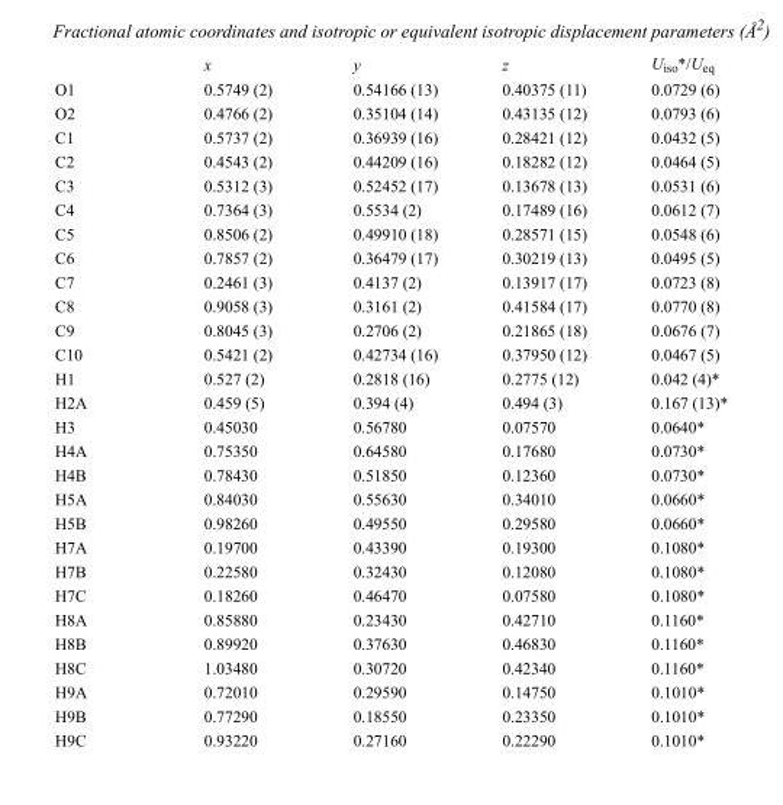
<table><thead><tr><td></td><td>x</td><td>y</td><td>z</td><td>U<sub>iso</sub>*/U<sub>eq</sub></td></tr></thead><tbody><tr><td>O1</td><td>0.5749 (2)</td><td>0.54166 (13)</td><td>0.40375 (11)</td><td>0.0729 (6)</td></tr><tr><td>O2</td><td>0.4766 (2)</td><td>0.35104 (14)</td><td>0.43135 (12)</td><td>0.0793 (6)</td></tr><tr><td>C1</td><td>0.5737 (2)</td><td>0.36939 (16)</td><td>0.28421 (12)</td><td>0.0432 (5)</td></tr><tr><td>C2</td><td>0.4543 (2)</td><td>0.44209 (16)</td><td>0.18282 (12)</td><td>0.0464 (5)</td></tr><tr><td>C3</td><td>0.5312 (3)</td><td>0.52452 (17)</td><td>0.13678 (13)</td><td>0.0531 (6)</td></tr><tr><td>C4</td><td>0.7364 (3)</td><td>0.5534 (2)</td><td>0.17489 (16)</td><td>0.0612 (7)</td></tr><tr><td>C5</td><td>0.8506 (2)</td><td>0.49910 (18)</td><td>0.28571 (15)</td><td>0.0548 (6)</td></tr><tr><td>C6</td><td>0.7857 (2)</td><td>0.36479 (17)</td><td>0.30219 (13)</td><td>0.0495 (5)</td></tr><tr><td>C7</td><td>0.2461 (3)</td><td>0.4137 (2)</td><td>0.13917 (17)</td><td>0.0723 (8)</td></tr><tr><td>C8</td><td>0.9058 (3)</td><td>0.3161 (2)</td><td>0.41584 (17)</td><td>0.0770 (8)</td></tr><tr><td>C9</td><td>0.8045 (3)</td><td>0.2706 (2)</td><td>0.21865 (18)</td><td>0.0676 (7)</td></tr><tr><td>C10</td><td>0.5421 (2)</td><td>0.42734 (16)</td><td>0.37950 (12)</td><td>0.0467 (5)</td></tr><tr><td>H1</td><td>0.527 (2)</td><td>0.2818 (16)</td><td>0.2775 (12)</td><td>0.042 (4)*</td></tr><tr><td>H2A</td><td>0.459 (5)</td><td>0.394 (4)</td><td>0.494 (3)</td><td>0.167 (13)*</td></tr><tr><td>H3</td><td>0.45030</td><td>0.56780</td><td>0.07570</td><td>0.0640*</td></tr><tr><td>H4A</td><td>0.75350</td><td>0.64580</td><td>0.17680</td><td>0.0730*</td></tr><tr><td>H4B</td><td>0.78430</td><td>0.51850</td><td>0.12360</td><td>0.0730*</td></tr><tr><td>H5A</td><td>0.84030</td><td>0.55630</td><td>0.34010</td><td>0.0660*</td></tr><tr><td>H5B</td><td>0.98260</td><td>0.49550</td><td>0.29580</td><td>0.0660*</td></tr><tr><td>H7A</td><td>0.19700</td><td>0.43390</td><td>0.19300</td><td>0.1080*</td></tr><tr><td>H7B</td><td>0.22580</td><td>0.32430</td><td>0.12080</td><td>0.1080*</td></tr><tr><td>H7C</td><td>0.18260</td><td>0.46470</td><td>0.07580</td><td>0.1080*</td></tr><tr><td>H8A</td><td>0.85880</td><td>0.23430</td><td>0.42710</td><td>0.1160*</td></tr><tr><td>H8B</td><td>0.89920</td><td>0.37630</td><td>0.46830</td><td>0.1160*</td></tr><tr><td>H8C</td><td>1.03480</td><td>0.30720</td><td>0.42340</td><td>0.1160*</td></tr><tr><td>H9A</td><td>0.72010</td><td>0.29590</td><td>0.14750</td><td>0.1010*</td></tr><tr><td>H9B</td><td>0.77290</td><td>0.18550</td><td>0.23350</td><td>0.1010*</td></tr><tr><td>H9C</td><td>0.93220</td><td>0.27160</td><td>0.22290</td><td>0.1010*</td></tr></tbody></table>